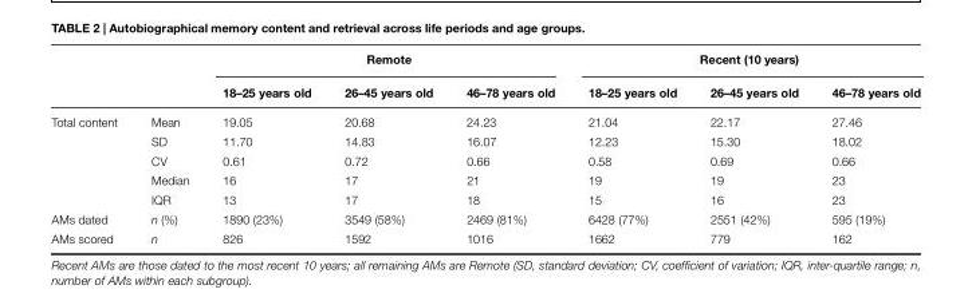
<table><thead><tr><td rowspan="2"></td><td rowspan="2"></td><td colspan="3">Remote</td><td colspan="3">Recent (10 years)</td></tr><tr><td>18–25 years old</td><td>26–45 years old</td><td>46–78 years old</td><td>18–25 years old</td><td>26–45 years old</td><td>46–78 years old</td></tr></thead><tbody><tr><td rowspan="5">Total content</td><td>Mean</td><td>19.05</td><td>20.68</td><td>24.23</td><td>21.04</td><td>22.17</td><td>27.46</td></tr><tr><td>SD</td><td>11.70</td><td>14.83</td><td>16.07</td><td>12.23</td><td>15.30</td><td>18.02</td></tr><tr><td>CV</td><td>0.61</td><td>0.72</td><td>0.66</td><td>0.58</td><td>0.69</td><td>0.66</td></tr><tr><td>Median</td><td>16</td><td>17</td><td>21</td><td>19</td><td>19</td><td>23</td></tr><tr><td>IQR</td><td>13</td><td>17</td><td>18</td><td>15</td><td>16</td><td>23</td></tr><tr><td>AMs dated</td><td>n (%)</td><td>1890 (23%)</td><td>3549 (58%)</td><td>2469 (81%)</td><td>6428 (77%)</td><td>2551 (42%)</td><td>595 (19%)</td></tr><tr><td>AMs scored</td><td>n</td><td>826</td><td>1592</td><td>1016</td><td>1662</td><td>779</td><td>162</td></tr></tbody></table>